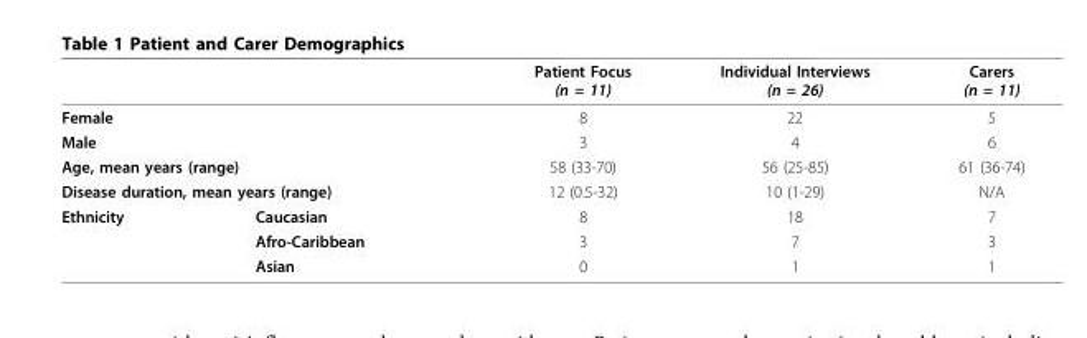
<table><thead><tr><td></td><td></td><td>Patient Focus (n = 11)</td><td>Individual Interviews (n = 26)</td><td>Carers (n = 11)</td></tr></thead><tbody><tr><td colspan="2">Female</td><td>8</td><td>22</td><td>5</td></tr><tr><td colspan="2">Male</td><td>3</td><td>4</td><td>6</td></tr><tr><td colspan="2">Age, mean years (range)</td><td>58 (33-70)</td><td>56 (25-85)</td><td>61 (36-74)</td></tr><tr><td colspan="2">Disease duration, mean years (range)</td><td>12 (0.5-32)</td><td>10 (1-29)</td><td>N/A</td></tr><tr><td rowspan="3">Ethnicity</td><td>Caucasian</td><td>8</td><td>18</td><td>7</td></tr><tr><td>Afro-Caribbean</td><td>3</td><td>7</td><td>3</td></tr><tr><td>Asian</td><td>0</td><td>1</td><td>1</td></tr></tbody></table>